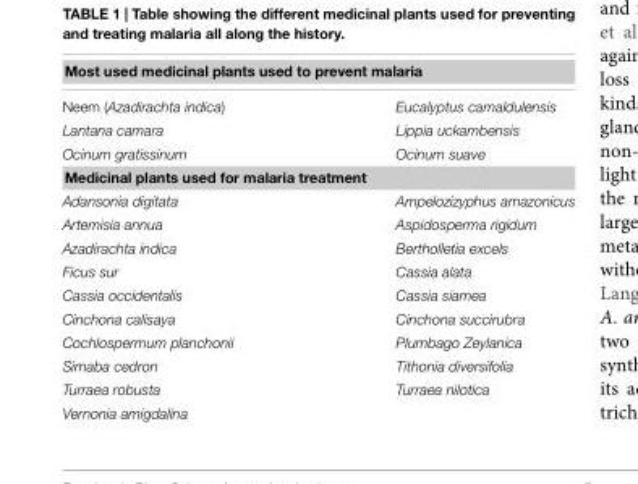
<table><thead><tr><td colspan="2">Most used medicinal plants used to prevent malaria</td></tr><tr><td>Neem (Azadirachta indica)</td><td>Eucalyptus camaldulensis</td></tr></thead><tbody><tr><td>Lantana camara</td><td>Lippia uckambensis</td></tr><tr><td>Ocinum gratissinum</td><td>Ocinum suave</td></tr><tr><td colspan="2">Medicinal plants used for malaria treatment</td></tr><tr><td>Adansonia digitata</td><td>Ampelozizyphus amazonicus</td></tr><tr><td>Artemisia annua</td><td>Aspidosperma rigidum</td></tr><tr><td>Azadirachta indica</td><td>Bertholletia excels</td></tr><tr><td>Ficus sur</td><td>Cassia alata</td></tr><tr><td>Cassia occidentalis</td><td>Cassia siamea</td></tr><tr><td>Cinchona calisaya</td><td>Cinchona succirubra</td></tr><tr><td>Cochlospermum planchonii</td><td>Plumbago Zeylanica</td></tr><tr><td>Simaba cedron</td><td>Tithonia diversifolia</td></tr><tr><td>Turraea robusta</td><td>Turraea nilotica</td></tr><tr><td>Vernonia amigdalina</td><td></td></tr></tbody></table>